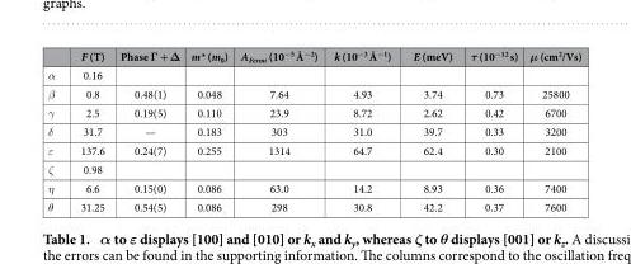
<table><thead><tr><td></td><td>F (T)</td><td>Phase Γ + Δ</td><td>m* (m<sub>0</sub>)</td><td>A<sub>Fermi</sub> (10<sup>−5</sup> Å<sup>−2</sup>)</td><td>k (10<sup>−3</sup> Å<sup>−1</sup>)</td><td>E (meV)</td><td>τ (10<sup>−12</sup> s)</td><td>μ (cm<sup>2</sup>/Vs)</td></tr></thead><tbody><tr><td>α</td><td>0.16</td><td></td><td></td><td></td><td></td><td></td><td></td><td></td></tr><tr><td>β</td><td>0.8</td><td>0.48(1)</td><td>0.048</td><td>7.64</td><td>4.93</td><td>3.74</td><td>0.73</td><td>25800</td></tr><tr><td>γ</td><td>2.5</td><td>0.19(5)</td><td>0.110</td><td>23.9</td><td>8.72</td><td>2.62</td><td>0.42</td><td>6700</td></tr><tr><td>δ</td><td>31.7</td><td>—</td><td>0.183</td><td>303</td><td>31.0</td><td>39.7</td><td>0.33</td><td>3200</td></tr><tr><td>ε</td><td>137.6</td><td>0.24(7)</td><td>0.255</td><td>1314</td><td>64.7</td><td>62.4</td><td>0.30</td><td>2100</td></tr><tr><td>ζ</td><td>0.98</td><td></td><td></td><td></td><td></td><td></td><td></td><td></td></tr><tr><td>η</td><td>6.6</td><td>0.15(0)</td><td>0.086</td><td>63.0</td><td>14.2</td><td>8.93</td><td>0.36</td><td>7400</td></tr><tr><td>θ</td><td>31.25</td><td>0.54(5)</td><td>0.086</td><td>298</td><td>30.8</td><td>42.2</td><td>0.37</td><td>7600</td></tr></tbody></table>